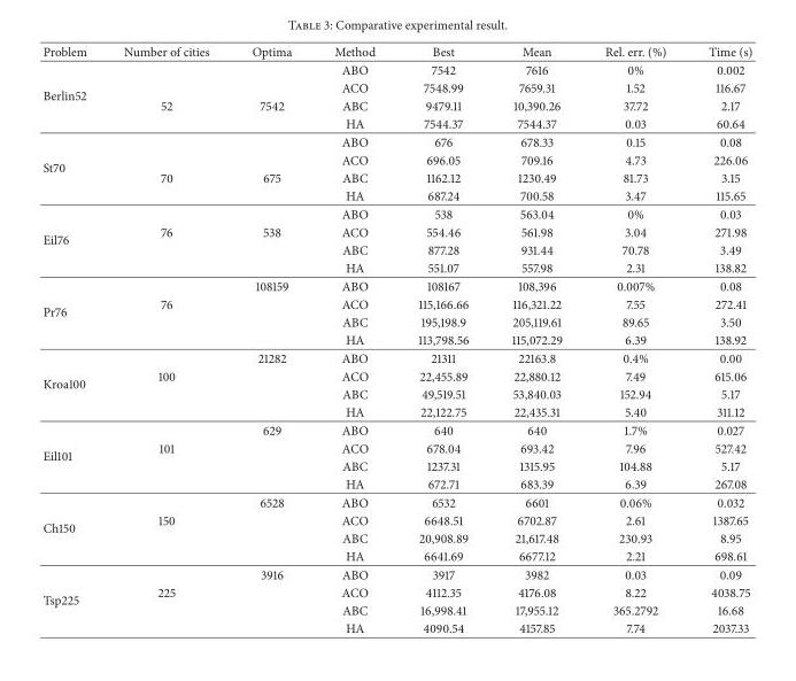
<table><thead><tr><td>Problem</td><td>Number of cities</td><td>Optima</td><td>Method</td><td>Best</td><td>Mean</td><td>Rel. err. (%)</td><td>Time (s)</td></tr></thead><tbody><tr><td rowspan="4">Berlin52</td><td></td><td></td><td>ABO</td><td>7542</td><td>7616</td><td>0%</td><td>0.002</td></tr><tr><td></td><td></td><td>ACO</td><td>7548.99</td><td>7659.31</td><td>1.52</td><td>116.67</td></tr><tr><td>52</td><td>7542</td><td>ABC</td><td>9479.11</td><td>10,390.26</td><td>37.72</td><td>2.17</td></tr><tr><td></td><td></td><td>HA</td><td>7544.37</td><td>7544.37</td><td>0.03</td><td>60.64</td></tr><tr><td rowspan="4">St70</td><td></td><td></td><td>ABO</td><td>676</td><td>678.33</td><td>0.15</td><td>0.08</td></tr><tr><td></td><td></td><td>ACO</td><td>696.05</td><td>709.16</td><td>4.73</td><td>226.06</td></tr><tr><td>70</td><td>675</td><td>ABC</td><td>1162.12</td><td>1230.49</td><td>81.73</td><td>3.15</td></tr><tr><td></td><td></td><td>HA</td><td>687.24</td><td>700.58</td><td>3.47</td><td>115.65</td></tr><tr><td rowspan="4">Eil76</td><td></td><td></td><td>ABO</td><td>538</td><td>563.04</td><td>0%</td><td>0.03</td></tr><tr><td>76</td><td>538</td><td>ACO</td><td>554.46</td><td>561.98</td><td>3.04</td><td>271.98</td></tr><tr><td></td><td></td><td>ABC</td><td>877.28</td><td>931.44</td><td>70.78</td><td>3.49</td></tr><tr><td></td><td></td><td>HA</td><td>551.07</td><td>557.98</td><td>2.31</td><td>138.82</td></tr><tr><td rowspan="4">Pr76</td><td></td><td>108159</td><td>ABO</td><td>108167</td><td>108,396</td><td>0.007%</td><td>0.08</td></tr><tr><td>76</td><td></td><td>ACO</td><td>115,166.66</td><td>116,321.22</td><td>7.55</td><td>272.41</td></tr><tr><td></td><td></td><td>ABC</td><td>195,198.9</td><td>205,119.61</td><td>89.65</td><td>3.50</td></tr><tr><td></td><td></td><td>HA</td><td>113,798.56</td><td>115,072.29</td><td>6.39</td><td>138.92</td></tr><tr><td rowspan="4">Kroa100</td><td></td><td>21282</td><td>ABO</td><td>21311</td><td>22163.8</td><td>0.4%</td><td>0.00</td></tr><tr><td>100</td><td></td><td>ACO</td><td>22,455.89</td><td>22,880.12</td><td>7.49</td><td>615.06</td></tr><tr><td></td><td></td><td>ABC</td><td>49,519.51</td><td>53,840.03</td><td>152.94</td><td>5.17</td></tr><tr><td></td><td></td><td>HA</td><td>22,122.75</td><td>22,435.31</td><td>5.40</td><td>311.12</td></tr><tr><td rowspan="4">Eil101</td><td></td><td>629</td><td>ABO</td><td>640</td><td>640</td><td>1.7%</td><td>0.027</td></tr><tr><td>101</td><td></td><td>ACO</td><td>678.04</td><td>693.42</td><td>7.96</td><td>527.42</td></tr><tr><td></td><td></td><td>ABC</td><td>1237.31</td><td>1315.95</td><td>104.88</td><td>5.17</td></tr><tr><td></td><td></td><td>HA</td><td>672.71</td><td>683.39</td><td>6.39</td><td>267.08</td></tr><tr><td rowspan="4">Ch150</td><td></td><td>6528</td><td>ABO</td><td>6532</td><td>6601</td><td>0.06%</td><td>0.032</td></tr><tr><td>150</td><td></td><td>ACO</td><td>6648.51</td><td>6702.87</td><td>2.61</td><td>1387.65</td></tr><tr><td></td><td></td><td>ABC</td><td>20,908.89</td><td>21,617.48</td><td>230.93</td><td>8.95</td></tr><tr><td></td><td></td><td>HA</td><td>6641.69</td><td>6677.12</td><td>2.21</td><td>698.61</td></tr><tr><td rowspan="4">Tsp225</td><td></td><td>3916</td><td>ABO</td><td>3917</td><td>3982</td><td>0.03</td><td>0.09</td></tr><tr><td>225</td><td></td><td>ACO</td><td>4112.35</td><td>4176.08</td><td>8.22</td><td>4038.75</td></tr><tr><td></td><td></td><td>ABC</td><td>16,998.41</td><td>17,955.12</td><td>365.2792</td><td>16.68</td></tr><tr><td></td><td></td><td>HA</td><td>4090.54</td><td>4157.85</td><td>7.74</td><td>2037.33</td></tr></tbody></table>